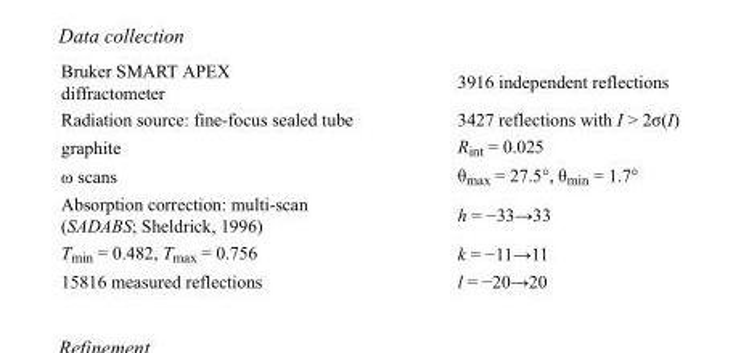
<table><tbody><tr><td>Bruker SMART APEX diffractometer</td><td>3916 independent reflections</td></tr><tr><td>Radiation source: fine-focus sealed tube</td><td>3427 reflections with I &gt; 2σ(I)</td></tr><tr><td>graphite</td><td>R<sub>int</sub> = 0.025</td></tr><tr><td>ω scans</td><td>θ<sub>max</sub> = 27.5°, θ<sub>min</sub> = 1.7°</td></tr><tr><td>Absorption correction: multi-scan (SADABS; Sheldrick, 1996)</td><td>h = −33→33</td></tr><tr><td>T<sub>min</sub> = 0.482, T<sub>max</sub> = 0.756</td><td>k = −11→11</td></tr><tr><td>15816 measured reflections</td><td>l = −20→20</td></tr></tbody></table>